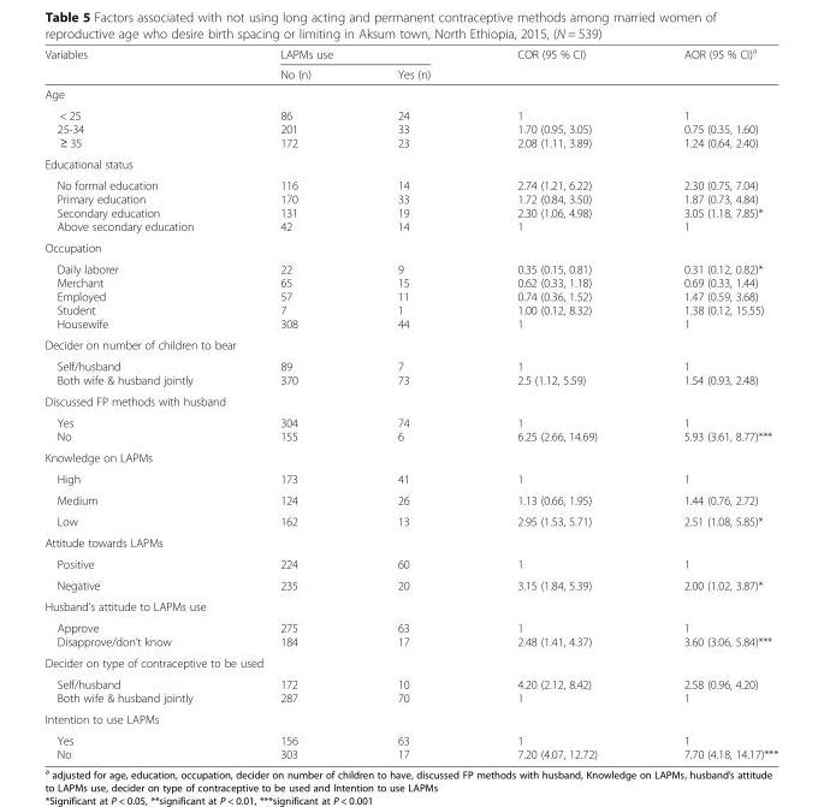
<table><thead><tr><td rowspan="2">Variables</td><td colspan="2">LAPMs use</td><td rowspan="2">COR (95 % CI)</td><td rowspan="2">AOR (95 % CI)<sup>a</sup></td></tr><tr><td>No (n)</td><td>Yes (n)</td></tr></thead><tbody><tr><td colspan="5">Age</td></tr><tr><td>&lt; 25 25-34 ≥ 35</td><td>86 201 172</td><td>24 33 23</td><td>1 1.70 (0.95, 3.05) 2.08 (1.11, 3.89)</td><td>1 0.75 (0.35, 1.60) 1.24 (0.64, 2.40)</td></tr><tr><td colspan="5">Educational status</td></tr><tr><td>No formal education Primary education Secondary education Above secondary education</td><td>116 170 131 42</td><td>14 33 19 14</td><td>2.74 (1.21, 6.22) 1.72 (0.84, 3.50) 2.30 (1.06, 4.98) 1</td><td>2.30 (0.75, 7.04) 1.87 (0.73, 4.84) 3.05 (1.18, 7.85)* 1</td></tr><tr><td colspan="5">Occupation</td></tr><tr><td>Daily laborer Merchant Employed Student Housewife</td><td>22 65 57 7 308</td><td>9 15 11 1 44</td><td>0.35 (0.15, 0.81) 0.62 (0.33, 1.18) 0.74 (0.36, 1.52) 1.00 (0.12, 8.32) 1</td><td>0.31 (0.12, 0.82)* 0.69 (0.33, 1.44) 1.47 (0.59, 3.68) 1.38 (0.12, 15.55) 1</td></tr><tr><td colspan="5">Decider on number of children to bear</td></tr><tr><td>Self/husband Both wife &amp; husband jointly</td><td>89 370</td><td>7 73</td><td>1 2.5 (1.12, 5.59)</td><td>1 1.54 (0.93, 2.48)</td></tr><tr><td colspan="5">Discussed FP methods with husband</td></tr><tr><td>Yes No</td><td>304 155</td><td>74 6</td><td>1 6.25 (2.66, 14.69)</td><td>1 5.93 (3.61, 8.77)***</td></tr><tr><td colspan="5">Knowledge on LAPMs</td></tr><tr><td>High</td><td>173</td><td>41</td><td>1</td><td>1</td></tr><tr><td>Medium</td><td>124</td><td>26</td><td>1.13 (0.66, 1.95)</td><td>1.44 (0.76, 2.72)</td></tr><tr><td>Low</td><td>162</td><td>13</td><td>2.95 (1.53, 5.71)</td><td>2.51 (1.08, 5.85)*</td></tr><tr><td colspan="5">Attitude towards LAPMs</td></tr><tr><td>Positive</td><td>224</td><td>60</td><td>1</td><td>1</td></tr><tr><td>Negative</td><td>235</td><td>20</td><td>3.15 (1.84, 5.39)</td><td>2.00 (1.02, 3.87)*</td></tr><tr><td colspan="5">Husband’s attitude to LAPMs use</td></tr><tr><td>Approve Disapprove/don’t know</td><td>275 184</td><td>63 17</td><td>1 2.48 (1.41, 4.37)</td><td>1 3.60 (3.06, 5.84)***</td></tr><tr><td colspan="5">Decider on type of contraceptive to be used</td></tr><tr><td>Self/husband Both wife &amp; husband jointly</td><td>172 287</td><td>10 70</td><td>4.20 (2.12, 8.42) 1</td><td>2.58 (0.96, 4.20) 1</td></tr><tr><td colspan="5">Intention to use LAPMs</td></tr><tr><td>Yes No</td><td>156 303</td><td>63 17</td><td>1 7.20 (4.07, 12.72)</td><td>1 7.70 (4.18, 14.17)***</td></tr></tbody></table>